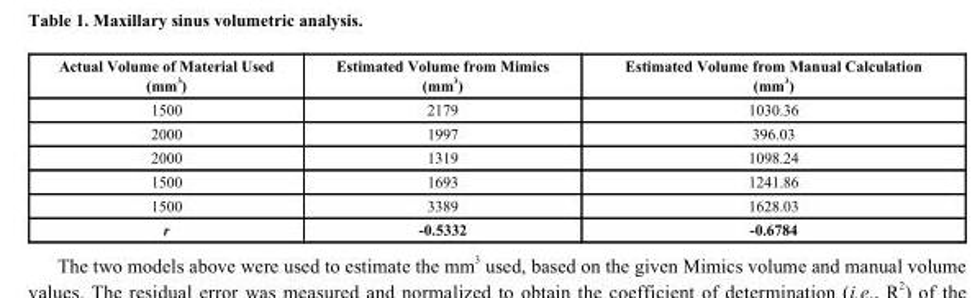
<table><thead><tr><td>Actual Volume of Material Used (mm <sup>3</sup>)</td><td>Estimated Volume from Mimics (mm <sup>3</sup>)</td><td>Estimated Volume from Manual Calculation (mm <sup>3</sup>)</td></tr></thead><tbody><tr><td>1500</td><td>2179</td><td>1030.36</td></tr><tr><td>2000</td><td>1997</td><td>396.03</td></tr><tr><td>2000</td><td>1319</td><td>1098.24</td></tr><tr><td>1500</td><td>1693</td><td>1241.86</td></tr><tr><td>1500</td><td>3389</td><td>1628.03</td></tr><tr><td>r</td><td>-0.5332</td><td>-0.6784</td></tr></tbody></table>